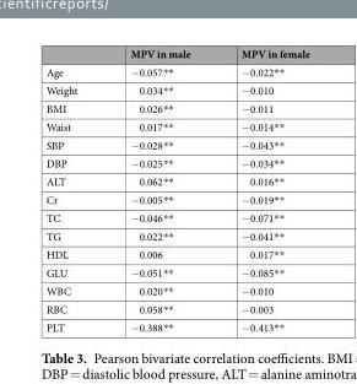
<table><thead><tr><td></td><td>MPV in male</td><td>MPV in female</td></tr></thead><tbody><tr><td>Age</td><td>−0.057**</td><td>−0.022**</td></tr><tr><td>Weight</td><td>0.034**</td><td>−0.010</td></tr><tr><td>BMI</td><td>0.026**</td><td>−0.011</td></tr><tr><td>Waist</td><td>0.017**</td><td>−0.014**</td></tr><tr><td>SBP</td><td>−0.028**</td><td>−0.043**</td></tr><tr><td>DBP</td><td>−0.025**</td><td>−0.034**</td></tr><tr><td>ALT</td><td>0.062**</td><td>0.016**</td></tr><tr><td>Cr</td><td>−0.005**</td><td>−0.019**</td></tr><tr><td>TC</td><td>−0.046**</td><td>−0.071**</td></tr><tr><td>TG</td><td>0.022**</td><td>−0.041**</td></tr><tr><td>HDL</td><td>0.006</td><td>0.017**</td></tr><tr><td>GLU</td><td>−0.051**</td><td>−0.085**</td></tr><tr><td>WBC</td><td>0.020**</td><td>−0.010</td></tr><tr><td>RBC</td><td>0.058**</td><td>−0.003</td></tr><tr><td>PLT</td><td>−0.388**</td><td>−0.413**</td></tr></tbody></table>